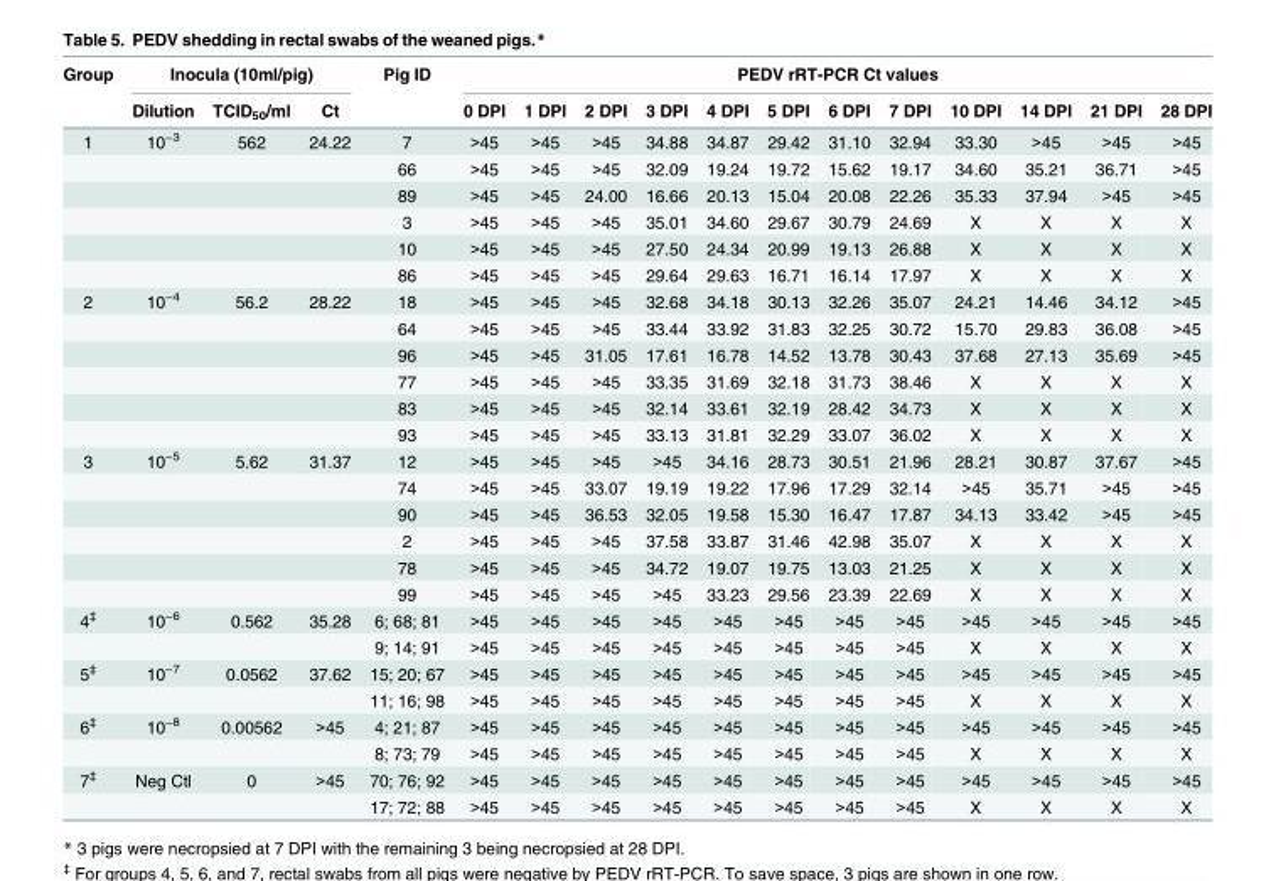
<table><thead><tr><td rowspan="2">Group</td><td colspan="3">Inocula (10ml/pig)</td><td rowspan="2">Pig ID</td><td colspan="12">PEDV rRT-PCR Ct values</td></tr><tr><td>Dilution</td><td>TCID<sub>50</sub>/ml</td><td>Ct</td><td>0 DPI</td><td>1 DPI</td><td>2 DPI</td><td>3 DPI</td><td>4 DPI</td><td>5 DPI</td><td>6 DPI</td><td>7 DPI</td><td>10 DPI</td><td>14 DPI</td><td>21 DPI</td><td>28 DPI</td></tr></thead><tbody><tr><td rowspan="6">1</td><td>10<sup>−3</sup></td><td>562</td><td>24.22</td><td>7</td><td>&gt;45</td><td>&gt;45</td><td>&gt;45</td><td>34.88</td><td>34.87</td><td>29.42</td><td>31.10</td><td>32.94</td><td>33.30</td><td>&gt;45</td><td>&gt;45</td><td>&gt;45</td></tr><tr><td></td><td></td><td></td><td>66</td><td>&gt;45</td><td>&gt;45</td><td>&gt;45</td><td>32.09</td><td>19.24</td><td>19.72</td><td>15.62</td><td>19.17</td><td>34.60</td><td>35.21</td><td>36.71</td><td>&gt;45</td></tr><tr><td></td><td></td><td></td><td>89</td><td>&gt;45</td><td>&gt;45</td><td>24.00</td><td>16.66</td><td>20.13</td><td>15.04</td><td>20.08</td><td>22.26</td><td>35.33</td><td>37.94</td><td>&gt;45</td><td>&gt;45</td></tr><tr><td></td><td></td><td></td><td>3</td><td>&gt;45</td><td>&gt;45</td><td>&gt;45</td><td>35.01</td><td>34.60</td><td>29.67</td><td>30.79</td><td>24.69</td><td>X</td><td>X</td><td>X</td><td>X</td></tr><tr><td></td><td></td><td></td><td>10</td><td>&gt;45</td><td>&gt;45</td><td>&gt;45</td><td>27.50</td><td>24.34</td><td>20.99</td><td>19.13</td><td>26.88</td><td>X</td><td>X</td><td>X</td><td>X</td></tr><tr><td></td><td></td><td></td><td>86</td><td>&gt;45</td><td>&gt;45</td><td>&gt;45</td><td>29.64</td><td>29.63</td><td>16.71</td><td>16.14</td><td>17.97</td><td>X</td><td>X</td><td>X</td><td>X</td></tr><tr><td rowspan="6">2</td><td>10<sup>−4</sup></td><td>56.2</td><td>28.22</td><td>18</td><td>&gt;45</td><td>&gt;45</td><td>&gt;45</td><td>32.68</td><td>34.18</td><td>30.13</td><td>32.26</td><td>35.07</td><td>24.21</td><td>14.46</td><td>34.12</td><td>&gt;45</td></tr><tr><td></td><td></td><td></td><td>64</td><td>&gt;45</td><td>&gt;45</td><td>&gt;45</td><td>33.44</td><td>33.92</td><td>31.83</td><td>32.25</td><td>30.72</td><td>15.70</td><td>29.83</td><td>36.08</td><td>&gt;45</td></tr><tr><td></td><td></td><td></td><td>96</td><td>&gt;45</td><td>&gt;45</td><td>31.05</td><td>17.61</td><td>16.78</td><td>14.52</td><td>13.78</td><td>30.43</td><td>37.68</td><td>27.13</td><td>35.69</td><td>&gt;45</td></tr><tr><td></td><td></td><td></td><td>77</td><td>&gt;45</td><td>&gt;45</td><td>&gt;45</td><td>33.35</td><td>31.69</td><td>32.18</td><td>31.73</td><td>38.46</td><td>X</td><td>X</td><td>X</td><td>X</td></tr><tr><td></td><td></td><td></td><td>83</td><td>&gt;45</td><td>&gt;45</td><td>&gt;45</td><td>32.14</td><td>33.61</td><td>32.19</td><td>28.42</td><td>34.73</td><td>X</td><td>X</td><td>X</td><td>X</td></tr><tr><td></td><td></td><td></td><td>93</td><td>&gt;45</td><td>&gt;45</td><td>&gt;45</td><td>33.13</td><td>31.81</td><td>32.29</td><td>33.07</td><td>36.02</td><td>X</td><td>X</td><td>X</td><td>X</td></tr><tr><td rowspan="6">3</td><td>10<sup>−5</sup></td><td>5.62</td><td>31.37</td><td>12</td><td>&gt;45</td><td>&gt;45</td><td>&gt;45</td><td>&gt;45</td><td>34.16</td><td>28.73</td><td>30.51</td><td>21.96</td><td>28.21</td><td>30.87</td><td>37.67</td><td>&gt;45</td></tr><tr><td></td><td></td><td></td><td>74</td><td>&gt;45</td><td>&gt;45</td><td>33.07</td><td>19.19</td><td>19.22</td><td>17.96</td><td>17.29</td><td>32.14</td><td>&gt;45</td><td>35.71</td><td>&gt;45</td><td>&gt;45</td></tr><tr><td></td><td></td><td></td><td>90</td><td>&gt;45</td><td>&gt;45</td><td>36.53</td><td>32.05</td><td>19.58</td><td>15.30</td><td>16.47</td><td>17.87</td><td>34.13</td><td>33.42</td><td>&gt;45</td><td>&gt;45</td></tr><tr><td></td><td></td><td></td><td>2</td><td>&gt;45</td><td>&gt;45</td><td>&gt;45</td><td>37.58</td><td>33.87</td><td>31.46</td><td>42.98</td><td>35.07</td><td>X</td><td>X</td><td>X</td><td>X</td></tr><tr><td></td><td></td><td></td><td>78</td><td>&gt;45</td><td>&gt;45</td><td>&gt;45</td><td>34.72</td><td>19.07</td><td>19.75</td><td>13.03</td><td>21.25</td><td>X</td><td>X</td><td>X</td><td>X</td></tr><tr><td></td><td></td><td></td><td>99</td><td>&gt;45</td><td>&gt;45</td><td>&gt;45</td><td>&gt;45</td><td>33.23</td><td>29.56</td><td>23.39</td><td>22.69</td><td>X</td><td>X</td><td>X</td><td>X</td></tr><tr><td rowspan="2">4<sup>‡</sup></td><td>10<sup>−6</sup></td><td>0.562</td><td>35.28</td><td>6; 68; 81</td><td>&gt;45</td><td>&gt;45</td><td>&gt;45</td><td>&gt;45</td><td>&gt;45</td><td>&gt;45</td><td>&gt;45</td><td>&gt;45</td><td>&gt;45</td><td>&gt;45</td><td>&gt;45</td><td>&gt;45</td></tr><tr><td></td><td></td><td></td><td>9; 14; 91</td><td>&gt;45</td><td>&gt;45</td><td>&gt;45</td><td>&gt;45</td><td>&gt;45</td><td>&gt;45</td><td>&gt;45</td><td>&gt;45</td><td>X</td><td>X</td><td>X</td><td>X</td></tr><tr><td rowspan="2">5<sup>‡</sup></td><td>10<sup>−7</sup></td><td>0.0562</td><td>37.62</td><td>15; 20; 67</td><td>&gt;45</td><td>&gt;45</td><td>&gt;45</td><td>&gt;45</td><td>&gt;45</td><td>&gt;45</td><td>&gt;45</td><td>&gt;45</td><td>&gt;45</td><td>&gt;45</td><td>&gt;45</td><td>&gt;45</td></tr><tr><td></td><td></td><td></td><td>11; 16; 98</td><td>&gt;45</td><td>&gt;45</td><td>&gt;45</td><td>&gt;45</td><td>&gt;45</td><td>&gt;45</td><td>&gt;45</td><td>&gt;45</td><td>X</td><td>X</td><td>X</td><td>X</td></tr><tr><td rowspan="2">6<sup>‡</sup></td><td>10<sup>−8</sup></td><td>0.00562</td><td>&gt;45</td><td>4; 21; 87</td><td>&gt;45</td><td>&gt;45</td><td>&gt;45</td><td>&gt;45</td><td>&gt;45</td><td>&gt;45</td><td>&gt;45</td><td>&gt;45</td><td>&gt;45</td><td>&gt;45</td><td>&gt;45</td><td>&gt;45</td></tr><tr><td></td><td></td><td></td><td>8; 73; 79</td><td>&gt;45</td><td>&gt;45</td><td>&gt;45</td><td>&gt;45</td><td>&gt;45</td><td>&gt;45</td><td>&gt;45</td><td>&gt;45</td><td>X</td><td>X</td><td>X</td><td>X</td></tr><tr><td rowspan="2">7<sup>‡</sup></td><td>Neg Ctl</td><td>0</td><td>&gt;45</td><td>70; 76; 92</td><td>&gt;45</td><td>&gt;45</td><td>&gt;45</td><td>&gt;45</td><td>&gt;45</td><td>&gt;45</td><td>&gt;45</td><td>&gt;45</td><td>&gt;45</td><td>&gt;45</td><td>&gt;45</td><td>&gt;45</td></tr><tr><td></td><td></td><td></td><td>17; 72; 88</td><td>&gt;45</td><td>&gt;45</td><td>&gt;45</td><td>&gt;45</td><td>&gt;45</td><td>&gt;45</td><td>&gt;45</td><td>&gt;45</td><td>X</td><td>X</td><td>X</td><td>X</td></tr></tbody></table>